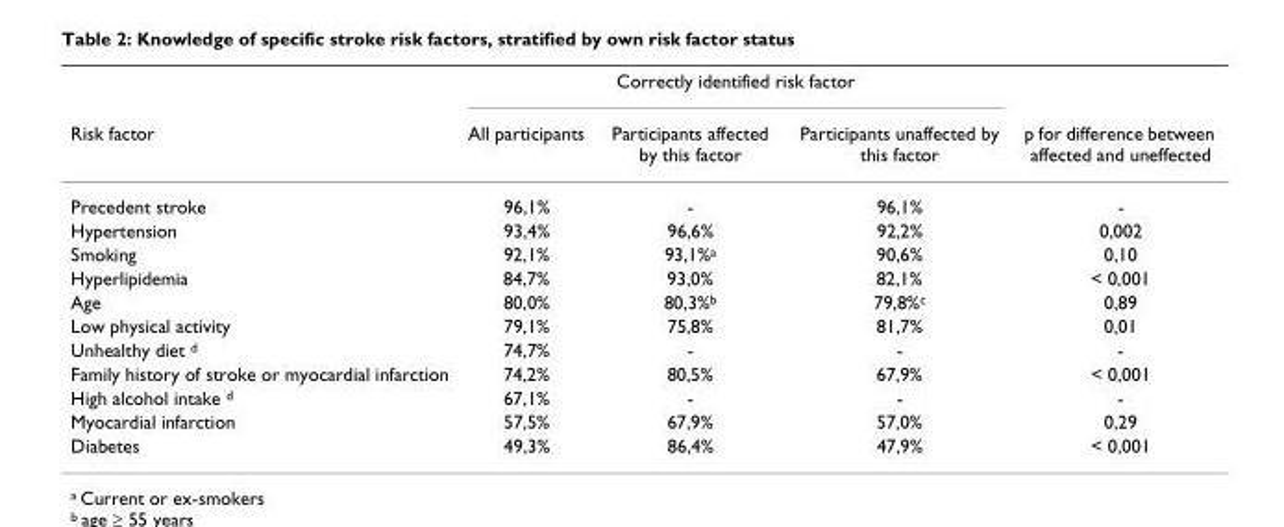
<table><thead><tr><td rowspan="2">Risk factor</td><td colspan="3">Correctly identified risk factor</td><td rowspan="2">p for difference between affected and uneffected</td></tr><tr><td>All participants</td><td>Participants affected by this factor</td><td>Participants unaffected by this factor</td></tr></thead><tbody><tr><td>Precedent stroke</td><td>96,1%</td><td>-</td><td>96,1%</td><td>-</td></tr><tr><td>Hypertension</td><td>93,4%</td><td>96,6%</td><td>92,2%</td><td>0,002</td></tr><tr><td>Smoking</td><td>92,1%</td><td>93,1%<sup>a</sup></td><td>90,6%</td><td>0,10</td></tr><tr><td>Hyperlipidemia</td><td>84,7%</td><td>93,0%</td><td>82,1%</td><td>&lt; 0,001</td></tr><tr><td>Age</td><td>80,0%</td><td>80,3%<sup>b</sup></td><td>79,8%<sup>c</sup></td><td>0,89</td></tr><tr><td>Low physical activity</td><td>79,1%</td><td>75,8%</td><td>81,7%</td><td>0,01</td></tr><tr><td>Unhealthy diet <sup>d</sup></td><td>74,7%</td><td>-</td><td>-</td><td>-</td></tr><tr><td>Family history of stroke or myocardial infarction</td><td>74,2%</td><td>80,5%</td><td>67,9%</td><td>&lt; 0,001</td></tr><tr><td>High alcohol intake <sup>d</sup></td><td>67,1%</td><td>-</td><td>-</td><td>-</td></tr><tr><td>Myocardial infarction</td><td>57,5%</td><td>67,9%</td><td>57,0%</td><td>0,29</td></tr><tr><td>Diabetes</td><td>49,3%</td><td>86,4%</td><td>47,9%</td><td>&lt; 0,001</td></tr></tbody></table>